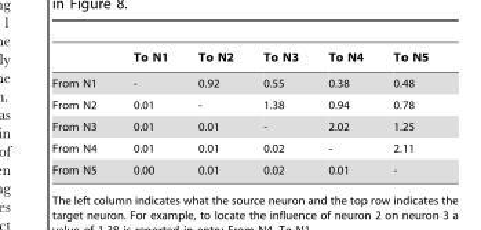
<table><thead><tr><td></td><td>To N1</td><td>To N2</td><td>To N3</td><td>To N4</td><td>To N5</td></tr></thead><tbody><tr><td>From N1</td><td>-</td><td>0.92</td><td>0.55</td><td>0.38</td><td>0.48</td></tr><tr><td>From N2</td><td>0.01</td><td>-</td><td>1.38</td><td>0.94</td><td>0.78</td></tr><tr><td>From N3</td><td>0.01</td><td>0.01</td><td>-</td><td>2.02</td><td>1.25</td></tr><tr><td>From N4</td><td>0.01</td><td>0.01</td><td>0.02</td><td>-</td><td>2.11</td></tr><tr><td>From N5</td><td>0.00</td><td>0.01</td><td>0.02</td><td>0.01</td><td>-</td></tr></tbody></table>